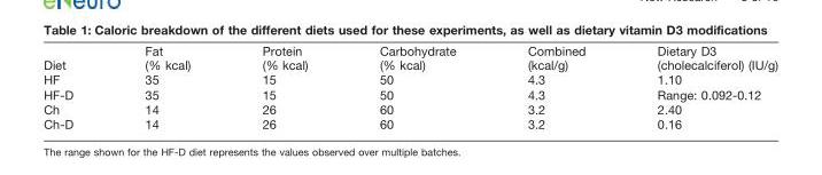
<table><thead><tr><td>Diet</td><td>Fat (% kcal)</td><td>Protein (% kcal)</td><td>Carbohydrate (% kcal)</td><td>Combined (kcal/g)</td><td>Dietary D3 (cholecalciferol) (IU/g)</td></tr></thead><tbody><tr><td>HF</td><td>35</td><td>15</td><td>50</td><td>4.3</td><td>1.10</td></tr><tr><td>HF-D</td><td>35</td><td>15</td><td>50</td><td>4.3</td><td>Range: 0.092-0.12</td></tr><tr><td>Ch</td><td>14</td><td>26</td><td>60</td><td>3.2</td><td>2.40</td></tr><tr><td>Ch-D</td><td>14</td><td>26</td><td>60</td><td>3.2</td><td>0.16</td></tr></tbody></table>